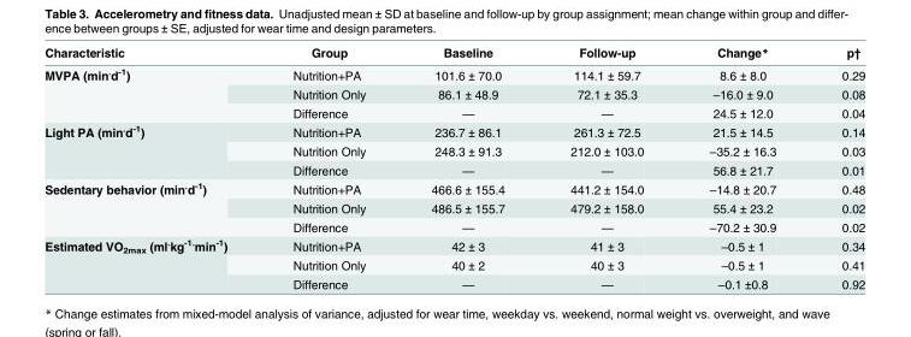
<table><thead><tr><td>Characteristic</td><td>Group</td><td>Baseline</td><td>Follow-up</td><td>Change*</td><td>p†</td></tr></thead><tbody><tr><td rowspan="3">MVPA (min<sup>.</sup>d<sup>-1</sup>)</td><td>Nutrition+PA</td><td>101.6 ± 70.0</td><td>114.1 ± 59.7</td><td>8.6 ± 8.0</td><td>0.29</td></tr><tr><td>Nutrition Only</td><td>86.1 ± 48.9</td><td>72.1 ± 35.3</td><td>–16.0 ± 9.0</td><td>0.08</td></tr><tr><td>Difference</td><td>—</td><td>—</td><td>24.5 ± 12.0</td><td>0.04</td></tr><tr><td rowspan="3">Light PA (min<sup>.</sup>d<sup>-1</sup>)</td><td>Nutrition+PA</td><td>236.7 ± 86.1</td><td>261.3 ± 72.5</td><td>21.5 ± 14.5</td><td>0.14</td></tr><tr><td>Nutrition Only</td><td>248.3 ± 91.3</td><td>212.0 ± 103.0</td><td>–35.2 ± 16.3</td><td>0.03</td></tr><tr><td>Difference</td><td>—</td><td>—</td><td>56.8 ± 21.7</td><td>0.01</td></tr><tr><td rowspan="3">Sedentary behavior (min<sup>.</sup>d<sup>-1</sup>)</td><td>Nutrition+PA</td><td>466.6 ± 155.4</td><td>441.2 ± 154.0</td><td>–14.8 ± 20.7</td><td>0.48</td></tr><tr><td>Nutrition Only</td><td>486.5 ± 155.7</td><td>479.2 ± 158.0</td><td>55.4 ± 23.2</td><td>0.02</td></tr><tr><td>Difference</td><td>—</td><td>—</td><td>–70.2 ± 30.9</td><td>0.02</td></tr><tr><td rowspan="3">Estimated VO<sub>2max</sub> (ml<sup>.</sup>kg<sup>-1.</sup>min<sup>-1</sup>)</td><td>Nutrition+PA</td><td>42 ± 3</td><td>41 ± 3</td><td>–0.5 ± 1</td><td>0.34</td></tr><tr><td>Nutrition Only</td><td>40 ± 2</td><td>40 ± 3</td><td>–0.5 ± 1</td><td>0.41</td></tr><tr><td>Difference</td><td>—</td><td>—</td><td>–0.1 ±0.8</td><td>0.92</td></tr></tbody></table>